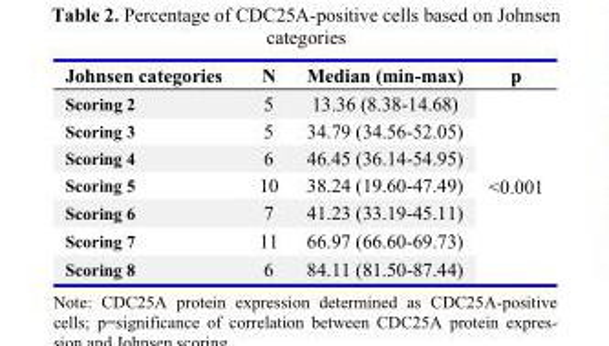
<table><thead><tr><td>Johnsen categories</td><td>N</td><td>Median (min-max)</td><td>p</td></tr></thead><tbody><tr><td>Scoring 2</td><td>5</td><td>13.36 (8.38-14.68)</td><td rowspan="7">&lt;0.001</td></tr><tr><td>Scoring 3</td><td>5</td><td>34.79 (34.56-52.05)</td></tr><tr><td>Scoring 4</td><td>6</td><td>46.45 (36.14-54.95)</td></tr><tr><td>Scoring 5</td><td>10</td><td>38.24 (19.60-47.49)</td></tr><tr><td>Scoring 6</td><td>7</td><td>41.23 (33.19-45.11)</td></tr><tr><td>Scoring 7</td><td>11</td><td>66.97 (66.60-69.73)</td></tr><tr><td>Scoring 8</td><td>6</td><td>84.11 (81.50-87.44)</td></tr></tbody></table>